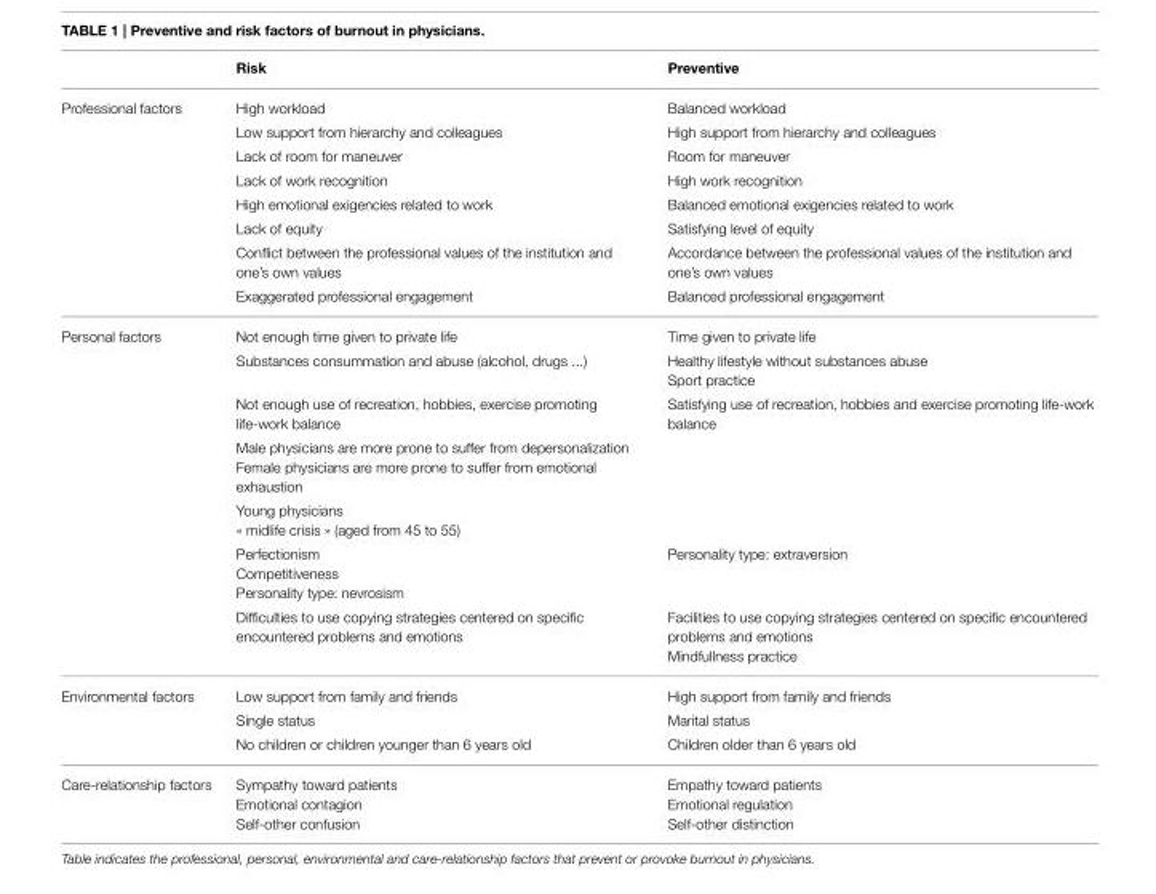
<table><thead><tr><td></td><td>Risk</td><td>Preventive</td></tr></thead><tbody><tr><td rowspan="8">Professional factors</td><td>High workload</td><td>Balanced workload</td></tr><tr><td>Low support from hierarchy and colleagues</td><td>High support from hierarchy and colleagues</td></tr><tr><td>Lack of room for maneuver</td><td>Room for maneuver</td></tr><tr><td>Lack of work recognition</td><td>High work recognition</td></tr><tr><td>High emotional exigencies related to work</td><td>Balanced emotional exigencies related to work</td></tr><tr><td>Lack of equity</td><td>Satisfying level of equity</td></tr><tr><td>Conflict between the professional values of the institution and one’s own values</td><td>Accordance between the professional values of the institution and one’s own values</td></tr><tr><td>Exaggerated professional engagement</td><td>Balanced professional engagement</td></tr><tr><td rowspan="7">Personal factors</td><td>Not enough time given to private life</td><td>Time given to private life</td></tr><tr><td>Substances consummation and abuse (alcohol, drugs ...)</td><td>Healthy lifestyle without substances abuse Sport practice</td></tr><tr><td>Not enough use of recreation, hobbies, exercise promoting life-work balance</td><td>Satisfying use of recreation, hobbies and exercise promoting life-work balance</td></tr><tr><td>Male physicians are more prone to suffer from depersonalization Female physicians are more prone to suffer from emotional exhaustion</td><td></td></tr><tr><td>Young physicians « midlife crisis » (aged from 45 to 55)</td><td></td></tr><tr><td>Perfectionism Competitiveness Personality type: nevrosism</td><td>Personality type: extraversion</td></tr><tr><td>Difficulties to use copying strategies centered on specific encountered problems and emotions</td><td>Facilities to use copying strategies centered on specific encountered problems and emotions Mindfullness practice</td></tr><tr><td rowspan="3">Environmental factors</td><td>Low support from family and friends</td><td>High support from family and friends</td></tr><tr><td>Single status</td><td>Marital status</td></tr><tr><td>No children or children younger than 6 years old</td><td>Children older than 6 years old</td></tr><tr><td>Care-relationship factors</td><td>Sympathy toward patients Emotional contagion Self-other confusion</td><td>Empathy toward patients Emotional regulation Self-other distinction</td></tr></tbody></table>